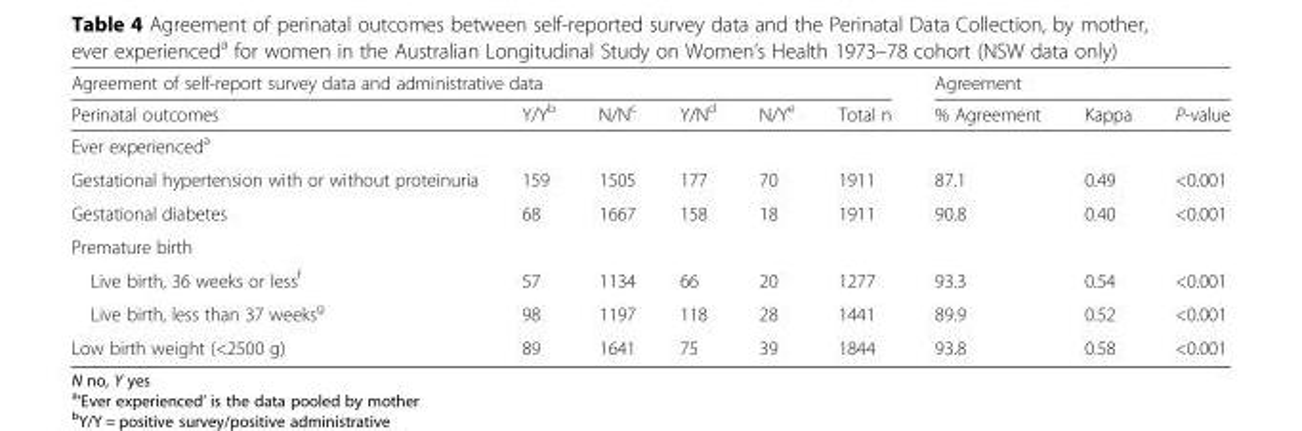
<table><thead><tr><td colspan="6">Agreement of self-report survey data and administrative data</td><td colspan="3">Agreement</td></tr><tr><td>Perinatal outcomes</td><td>Y/Y<sup>b</sup></td><td>N/N<sup>c</sup></td><td>Y/N<sup>d</sup></td><td>N/Y<sup>e</sup></td><td>Total n</td><td>% Agreement</td><td>Kappa</td><td>P-value</td></tr></thead><tbody><tr><td colspan="9">Ever experienced<sup>a</sup></td></tr><tr><td>Gestational hypertension with or without proteinuria</td><td>159</td><td>1505</td><td>177</td><td>70</td><td>1911</td><td>87.1</td><td>0.49</td><td>&lt;0.001</td></tr><tr><td>Gestational diabetes</td><td>68</td><td>1667</td><td>158</td><td>18</td><td>1911</td><td>90.8</td><td>0.40</td><td>&lt;0.001</td></tr><tr><td colspan="9">Premature birth</td></tr><tr><td>Live birth, 36 weeks or less<sup>f</sup></td><td>57</td><td>1134</td><td>66</td><td>20</td><td>1277</td><td>93.3</td><td>0.54</td><td>&lt;0.001</td></tr><tr><td>Live birth, less than 37 weeks<sup>g</sup></td><td>98</td><td>1197</td><td>118</td><td>28</td><td>1441</td><td>89.9</td><td>0.52</td><td>&lt;0.001</td></tr><tr><td>Low birth weight (&lt;2500 g)</td><td>89</td><td>1641</td><td>75</td><td>39</td><td>1844</td><td>93.8</td><td>0.58</td><td>&lt;0.001</td></tr></tbody></table>